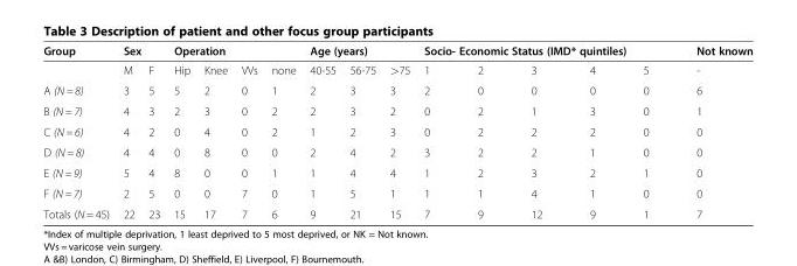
<table><thead><tr><td rowspan="2">Group</td><td colspan="2">Sex</td><td colspan="4">Operation</td><td colspan="3">Age (years)</td><td colspan="5">Socio- Economic Status (IMD* quintiles)</td><td rowspan="2">Not known -</td></tr><tr><td>M</td><td>F</td><td>Hip</td><td>Knee</td><td>VVs</td><td>none</td><td>40-55</td><td>56-75</td><td>&gt;75</td><td>1</td><td>2</td><td>3</td><td>4</td><td>5</td></tr></thead><tbody><tr><td>A (N = 8)</td><td>3</td><td>5</td><td>5</td><td>2</td><td>0</td><td>1</td><td>2</td><td>3</td><td>3</td><td>2</td><td>0</td><td>0</td><td>0</td><td>0</td><td>6</td></tr><tr><td>B (N = 7)</td><td>4</td><td>3</td><td>2</td><td>3</td><td>0</td><td>2</td><td>2</td><td>3</td><td>2</td><td>0</td><td>2</td><td>1</td><td>3</td><td>0</td><td>1</td></tr><tr><td>C (N = 6)</td><td>4</td><td>2</td><td>0</td><td>4</td><td>0</td><td>2</td><td>1</td><td>2</td><td>3</td><td>0</td><td>2</td><td>2</td><td>2</td><td>0</td><td>0</td></tr><tr><td>D (N = 8)</td><td>4</td><td>4</td><td>0</td><td>8</td><td>0</td><td>0</td><td>2</td><td>4</td><td>2</td><td>3</td><td>2</td><td>2</td><td>1</td><td>0</td><td>0</td></tr><tr><td>E (N = 9)</td><td>5</td><td>4</td><td>8</td><td>0</td><td>0</td><td>1</td><td>1</td><td>4</td><td>4</td><td>1</td><td>2</td><td>3</td><td>2</td><td>1</td><td>0</td></tr><tr><td>F (N = 7)</td><td>2</td><td>5</td><td>0</td><td>0</td><td>7</td><td>0</td><td>1</td><td>5</td><td>1</td><td>1</td><td>1</td><td>4</td><td>1</td><td>0</td><td>0</td></tr><tr><td>Totals (N = 45)</td><td>22</td><td>23</td><td>15</td><td>17</td><td>7</td><td>6</td><td>9</td><td>21</td><td>15</td><td>7</td><td>9</td><td>12</td><td>9</td><td>1</td><td>7</td></tr></tbody></table>